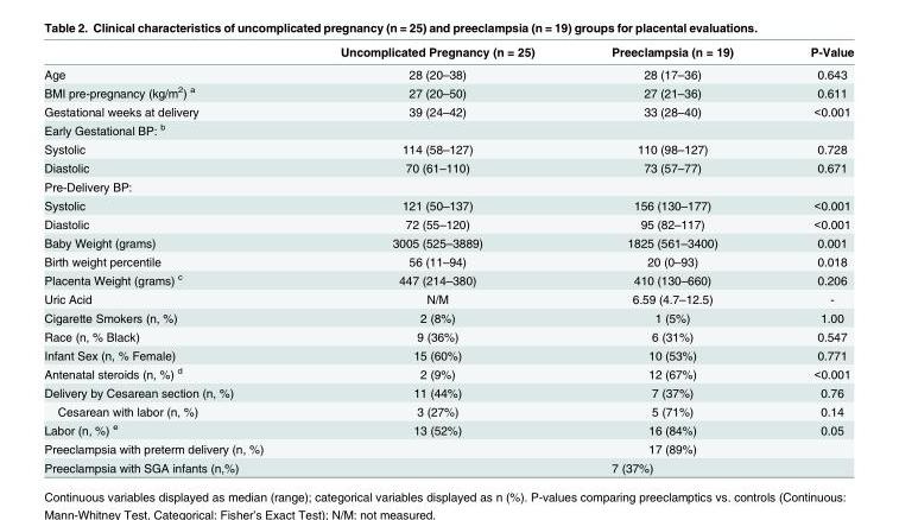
<table><thead><tr><td></td><td>Uncomplicated Pregnancy (n = 25)</td><td>Preeclampsia (n = 19)</td><td>P-Value</td></tr></thead><tbody><tr><td>Age</td><td>28 (20–38)</td><td>28 (17–36)</td><td>0.643</td></tr><tr><td>BMI pre-pregnancy (kg/m<sup>2</sup>) <sup>a</sup></td><td>27 (20–50)</td><td>27 (21–36)</td><td>0.611</td></tr><tr><td>Gestational weeks at delivery</td><td>39 (24–42)</td><td>33 (28–40)</td><td>&lt;0.001</td></tr><tr><td colspan="4">Early Gestational BP: <sup>b</sup></td></tr><tr><td>Systolic</td><td>114 (58–127)</td><td>110 (98–127)</td><td>0.728</td></tr><tr><td>Diastolic</td><td>70 (61–110)</td><td>73 (57–77)</td><td>0.671</td></tr><tr><td colspan="4">Pre-Delivery BP:</td></tr><tr><td>Systolic</td><td>121 (50–137)</td><td>156 (130–177)</td><td>&lt;0.001</td></tr><tr><td>Diastolic</td><td>72 (55–120)</td><td>95 (82–117)</td><td>&lt;0.001</td></tr><tr><td>Baby Weight (grams)</td><td>3005 (525–3889)</td><td>1825 (561–3400)</td><td>0.001</td></tr><tr><td>Birth weight percentile</td><td>56 (11–94)</td><td>20 (0–93)</td><td>0.018</td></tr><tr><td>Placenta Weight (grams) <sup>c</sup></td><td>447 (214–380)</td><td>410 (130–660)</td><td>0.206</td></tr><tr><td>Uric Acid</td><td>N/M</td><td>6.59 (4.7–12.5)</td><td>-</td></tr><tr><td>Cigarette Smokers (n, %)</td><td>2 (8%)</td><td>1 (5%)</td><td>1.00</td></tr><tr><td>Race (n, % Black)</td><td>9 (36%)</td><td>6 (31%)</td><td>0.547</td></tr><tr><td>Infant Sex (n, % Female)</td><td>15 (60%)</td><td>10 (53%)</td><td>0.771</td></tr><tr><td>Antenatal steroids (n, %) <sup>d</sup></td><td>2 (9%)</td><td>12 (67%)</td><td>&lt;0.001</td></tr><tr><td>Delivery by Cesarean section (n, %)</td><td>11 (44%)</td><td>7 (37%)</td><td>0.76</td></tr><tr><td>Cesarean with labor (n, %)</td><td>3 (27%)</td><td>5 (71%)</td><td>0.14</td></tr><tr><td>Labor (n, %) <sup>e</sup></td><td>13 (52%)</td><td>16 (84%)</td><td>0.05</td></tr><tr><td>Preeclampsia with preterm delivery (n, %)</td><td></td><td>17 (89%)</td><td></td></tr><tr><td>Preeclampsia with SGA infants (n,%)</td><td></td><td>7 (37%)</td><td></td></tr></tbody></table>